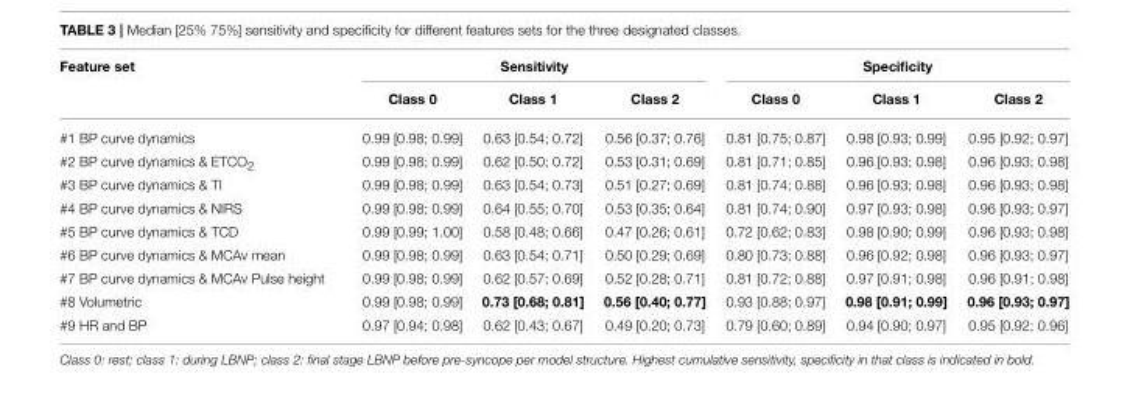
<table><thead><tr><td rowspan="2">Feature set</td><td colspan="3">Sensitivity</td><td colspan="3">Specificity</td></tr><tr><td>Class 0</td><td>Class 1</td><td>Class 2</td><td>Class 0</td><td>Class 1</td><td>Class 2</td></tr></thead><tbody><tr><td>#1 BP curve dynamics</td><td>0.99 [0.98; 0.99]</td><td>0.63 [0.54; 0.72]</td><td>0.56 [0.37; 0.76]</td><td>0.81 [0.75; 0.87]</td><td>0.98 [0.93; 0.99]</td><td>0.95 [0.92; 0.97]</td></tr><tr><td>#2 BP curve dynamics &amp; ETCO<sub>2</sub></td><td>0.99 [0.98; 0.99]</td><td>0.62 [0.50; 0.72]</td><td>0.53 [0.31; 0.69]</td><td>0.81 [0.71; 0.85]</td><td>0.96 [0.93; 0.98]</td><td>0.96 [0.93; 0.98]</td></tr><tr><td>#3 BP curve dynamics &amp; TI</td><td>0.99 [0.98; 0.99]</td><td>0.63 [0.54; 0.73]</td><td>0.51 [0.27; 0.69]</td><td>0.81 [0.74; 0.88]</td><td>0.96 [0.93; 0.98]</td><td>0.96 [0.93; 0.98]</td></tr><tr><td>#4 BP curve dynamics &amp; NIRS</td><td>0.99 [0.98; 0.99]</td><td>0.64 [0.55; 0.70]</td><td>0.53 [0.35; 0.64]</td><td>0.81 [0.74; 0.90]</td><td>0.97 [0.93; 0.98]</td><td>0.96 [0.93; 0.97]</td></tr><tr><td>#5 BP curve dynamics &amp; TCD</td><td>0.99 [0.99; 1.00]</td><td>0.58 [0.48; 0.66]</td><td>0.47 [0.26; 0.61]</td><td>0.72 [0.62; 0.83]</td><td>0.98 [0.90; 0.99]</td><td>0.96 [0.93; 0.98]</td></tr><tr><td>#6 BP curve dynamics &amp; MCAv mean</td><td>0.99 [0.98; 0.99]</td><td>0.63 [0.54; 0.71]</td><td>0.50 [0.29; 0.69]</td><td>0.80 [0.73; 0.88]</td><td>0.96 [0.92; 0.98]</td><td>0.96 [0.93; 0.97]</td></tr><tr><td>#7 BP curve dynamics &amp; MCAv Pulse height</td><td>0.99 [0.98; 0.99]</td><td>0.62 [0.57; 0.69]</td><td>0.52 [0.28; 0.71]</td><td>0.81 [0.72; 0.88]</td><td>0.97 [0.91; 0.98]</td><td>0.96 [0.91; 0.98]</td></tr><tr><td>#8 Volumetric</td><td>0.99 [0.98; 0.99]</td><td>0.73 [0.68; 0.81]</td><td>0.56 [0.40; 0.77]</td><td>0.93 [0.88; 0.97]</td><td>0.98 [0.91; 0.99]</td><td>0.96 [0.93; 0.97]</td></tr><tr><td>#9 HR and BP</td><td>0.97 [0.94; 0.98]</td><td>0.62 [0.43; 0.67]</td><td>0.49 [0.20; 0.73]</td><td>0.79 [0.60; 0.89]</td><td>0.94 [0.90; 0.97]</td><td>0.95 [0.92; 0.96]</td></tr></tbody></table>